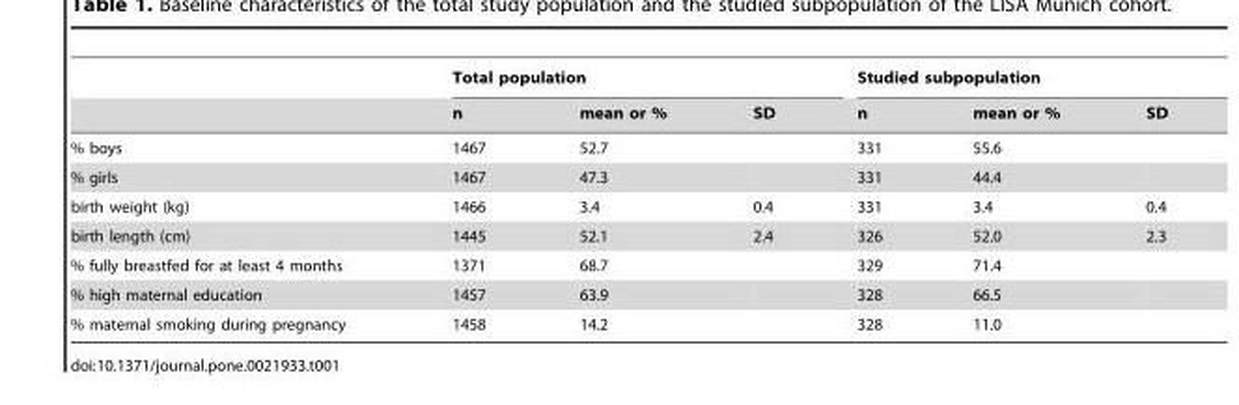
<table><thead><tr><td rowspan="2"></td><td colspan="3">Total population</td><td colspan="3">Studied subpopulation</td></tr><tr><td>n</td><td>mean or %</td><td>SD</td><td>n</td><td>mean or %</td><td>SD</td></tr></thead><tbody><tr><td>% boys</td><td>1467</td><td>52.7</td><td></td><td>331</td><td>55.6</td><td></td></tr><tr><td>% girls</td><td>1467</td><td>47.3</td><td></td><td>331</td><td>44.4</td><td></td></tr><tr><td>birth weight (kg)</td><td>1466</td><td>3.4</td><td>0.4</td><td>331</td><td>3.4</td><td>0.4</td></tr><tr><td>birth length (cm)</td><td>1445</td><td>52.1</td><td>2.4</td><td>326</td><td>52.0</td><td>2.3</td></tr><tr><td>% fully breastfed for at least 4 months</td><td>1371</td><td>68.7</td><td></td><td>329</td><td>71.4</td><td></td></tr><tr><td>% high maternal education</td><td>1457</td><td>63.9</td><td></td><td>328</td><td>66.5</td><td></td></tr><tr><td>% maternal smoking during pregnancy</td><td>1458</td><td>14.2</td><td></td><td>328</td><td>11.0</td><td></td></tr></tbody></table>